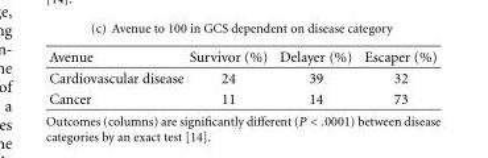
<table><thead><tr><td>Avenue</td><td>Survivor (%)</td><td>Delayer (%)</td><td>Escaper (%)</td></tr></thead><tbody><tr><td>Cardiovascular disease</td><td>24</td><td>39</td><td>32</td></tr><tr><td>Cancer</td><td>11</td><td>14</td><td>73</td></tr></tbody></table>